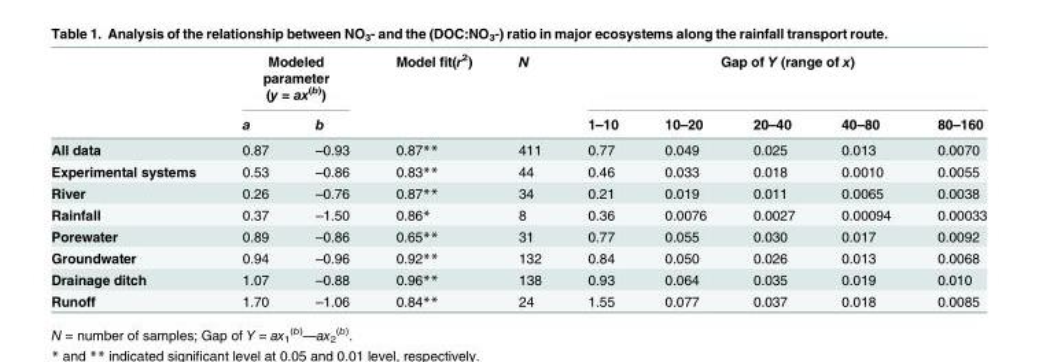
<table><thead><tr><td rowspan="2"></td><td colspan="2">Modeled parameter (y = ax<sup>(b)</sup>)</td><td rowspan="2">Model fit(r<sup>2</sup>)</td><td rowspan="2">N</td><td colspan="5">Gap of Y (range of x)</td></tr><tr><td>a</td><td>b</td><td>1–10</td><td>10–20</td><td>20–40</td><td>40–80</td><td>80–160</td></tr></thead><tbody><tr><td>All data</td><td>0.87</td><td>–0.93</td><td>0.87**</td><td>411</td><td>0.77</td><td>0.049</td><td>0.025</td><td>0.013</td><td>0.0070</td></tr><tr><td>Experimental systems</td><td>0.53</td><td>–0.86</td><td>0.83**</td><td>44</td><td>0.46</td><td>0.033</td><td>0.018</td><td>0.0010</td><td>0.0055</td></tr><tr><td>River</td><td>0.26</td><td>–0.76</td><td>0.87**</td><td>34</td><td>0.21</td><td>0.019</td><td>0.011</td><td>0.0065</td><td>0.0038</td></tr><tr><td>Rainfall</td><td>0.37</td><td>–1.50</td><td>0.86*</td><td>8</td><td>0.36</td><td>0.0076</td><td>0.0027</td><td>0.00094</td><td>0.00033</td></tr><tr><td>Porewater</td><td>0.89</td><td>–0.86</td><td>0.65**</td><td>31</td><td>0.77</td><td>0.055</td><td>0.030</td><td>0.017</td><td>0.0092</td></tr><tr><td>Groundwater</td><td>0.94</td><td>–0.96</td><td>0.92**</td><td>132</td><td>0.84</td><td>0.050</td><td>0.026</td><td>0.013</td><td>0.0068</td></tr><tr><td>Drainage ditch</td><td>1.07</td><td>–0.88</td><td>0.96**</td><td>138</td><td>0.93</td><td>0.064</td><td>0.035</td><td>0.019</td><td>0.010</td></tr><tr><td>Runoff</td><td>1.70</td><td>–1.06</td><td>0.84**</td><td>24</td><td>1.55</td><td>0.077</td><td>0.037</td><td>0.018</td><td>0.0085</td></tr></tbody></table>